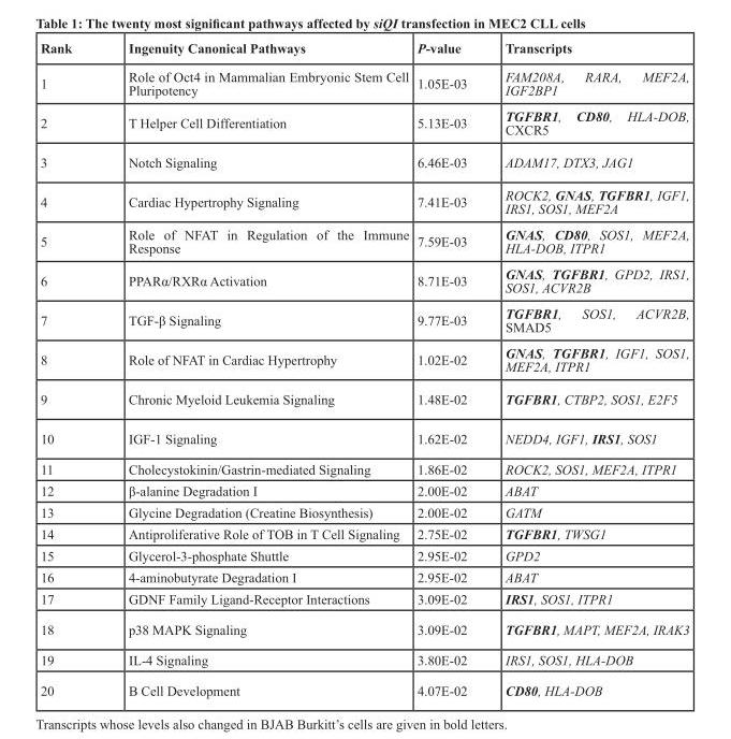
<table><thead><tr><td>Rank</td><td>Ingenuity Canonical Pathways</td><td>P-value</td><td>Transcripts</td></tr></thead><tbody><tr><td>1</td><td>Role of Oct4 in Mammalian Embryonic Stem Cell Pluripotency</td><td>1.05E-03</td><td>FAM208A, RARA, MEF2A, IGF2BP1</td></tr><tr><td>2</td><td>T Helper Cell Differentiation</td><td>5.13E-03</td><td>TGFBR1, CD80, HLA-DOB, CXCR5</td></tr><tr><td>3</td><td>Notch Signaling</td><td>6.46E-03</td><td>ADAM17, DTX3, JAG1</td></tr><tr><td>4</td><td>Cardiac Hypertrophy Signaling</td><td>7.41E-03</td><td>ROCK2, GNAS, TGFBR1, IGF1, IRS1, SOS1, MEF2A</td></tr><tr><td>5</td><td>Role of NFAT in Regulation of the Immune Response</td><td>7.59E-03</td><td>GNAS, CD80, SOS1, MEF2A, HLA-DOB, ITPR1</td></tr><tr><td>6</td><td>PPARα/RXRα Activation</td><td>8.71E-03</td><td>GNAS, TGFBR1, GPD2, IRS1, SOS1, ACVR2B</td></tr><tr><td>7</td><td>TGF-β Signaling</td><td>9.77E-03</td><td>TGFBR1, SOS1, ACVR2B, SMAD5</td></tr><tr><td>8</td><td>Role of NFAT in Cardiac Hypertrophy</td><td>1.02E-02</td><td>GNAS, TGFBR1, IGF1, SOS1, MEF2A, ITPR1</td></tr><tr><td>9</td><td>Chronic Myeloid Leukemia Signaling</td><td>1.48E-02</td><td>TGFBR1, CTBP2, SOS1, E2F5</td></tr><tr><td>10</td><td>IGF-1 Signaling</td><td>1.62E-02</td><td>NEDD4, IGF1, IRS1, SOS1</td></tr><tr><td>11</td><td>Cholecystokinin/Gastrin-mediated Signaling</td><td>1.86E-02</td><td>ROCK2, SOS1, MEF2A, ITPR1</td></tr><tr><td>12</td><td>β-alanine Degradation I</td><td>2.00E-02</td><td>ABAT</td></tr><tr><td>13</td><td>Glycine Degradation (Creatine Biosynthesis)</td><td>2.00E-02</td><td>GATM</td></tr><tr><td>14</td><td>Antiproliferative Role of TOB in T Cell Signaling</td><td>2.75E-02</td><td>TGFBR1, TWSG1</td></tr><tr><td>15</td><td>Glycerol-3-phosphate Shuttle</td><td>2.95E-02</td><td>GPD2</td></tr><tr><td>16</td><td>4-aminobutyrate Degradation I</td><td>2.95E-02</td><td>ABAT</td></tr><tr><td>17</td><td>GDNF Family Ligand-Receptor Interactions</td><td>3.09E-02</td><td>IRS1, SOS1, ITPR1</td></tr><tr><td>18</td><td>p38 MAPK Signaling</td><td>3.09E-02</td><td>TGFBR1, MAPT, MEF2A, IRAK3</td></tr><tr><td>19</td><td>IL-4 Signaling</td><td>3.80E-02</td><td>IRS1, SOS1, HLA-DOB</td></tr><tr><td>20</td><td>B Cell Development</td><td>4.07E-02</td><td>CD80, HLA-DOB</td></tr></tbody></table>